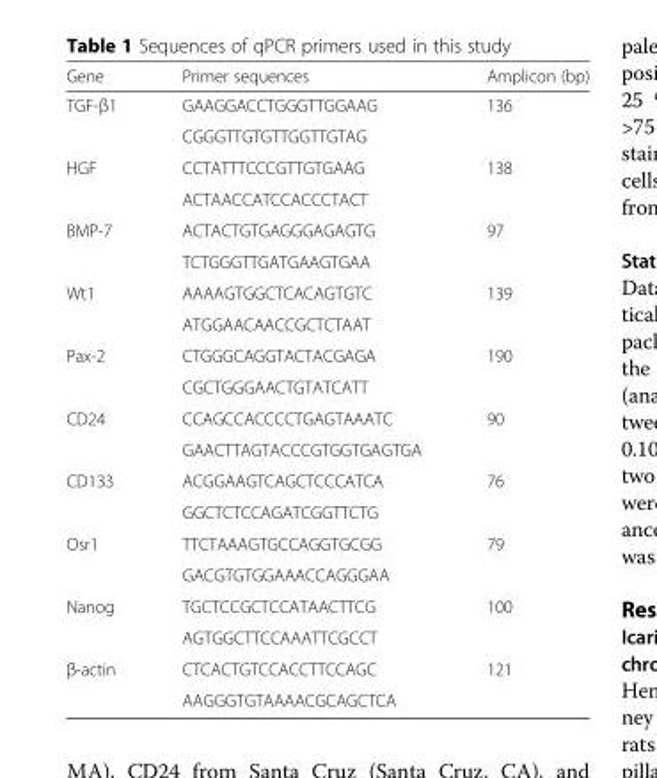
<table><thead><tr><td>Gene</td><td>Primer sequences</td><td>Amplicon (bp)</td></tr></thead><tbody><tr><td rowspan="2">TGF-β1</td><td>GAAGGACCTGGGTTGGAAG</td><td rowspan="2">136</td></tr><tr><td>CGGGTTGTGTTGGTTGTAG</td></tr><tr><td rowspan="2">HGF</td><td>CCTATTTCCCGTTGTGAAG</td><td rowspan="2">138</td></tr><tr><td>ACTAACCATCCACCCTACT</td></tr><tr><td rowspan="2">BMP-7</td><td>ACTACTGTGAGGGAGAGTG</td><td rowspan="2">97</td></tr><tr><td>TCTGGGTTGATGAAGTGAA</td></tr><tr><td rowspan="2">Wt1</td><td>AAAAGTGGCTCACAGTGTC</td><td rowspan="2">139</td></tr><tr><td>ATGGAACAACCGCTCTAAT</td></tr><tr><td rowspan="2">Pax-2</td><td>CTGGGCAGGTACTACGAGA</td><td rowspan="2">190</td></tr><tr><td>CGCTGGGAACTGTATCATT</td></tr><tr><td rowspan="2">CD24</td><td>CCAGCCACCCCTGAGTAAATC</td><td rowspan="2">90</td></tr><tr><td>GAACTTAGTACCCGTGGTGAGTGA</td></tr><tr><td rowspan="2">CD133</td><td>ACGGAAGTCAGCTCCCATCA</td><td rowspan="2">76</td></tr><tr><td>GGCTCTCCAGATCGGTTCTG</td></tr><tr><td rowspan="2">Osr1</td><td>TTCTAAAGTGCCAGGTGCGG</td><td rowspan="2">79</td></tr><tr><td>GACGTGTGGAAACCAGGGAA</td></tr><tr><td rowspan="2">Nanog</td><td>TGCTCCGCTCCATAACTTCG</td><td rowspan="2">100</td></tr><tr><td>AGTGGCTTCCAAATTCGCCT</td></tr><tr><td rowspan="2">β-actin</td><td>CTCACTGTCCACCTTCCAGC</td><td rowspan="2">121</td></tr><tr><td>AAGGGTGTAAAACGCAGCTCA</td></tr></tbody></table>